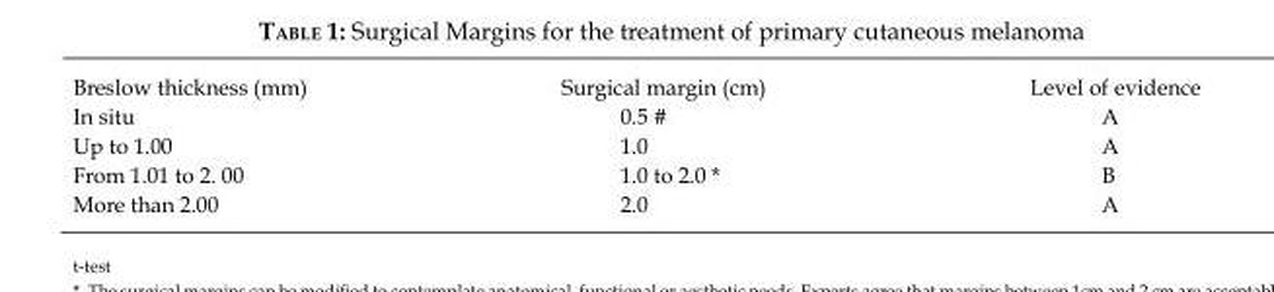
<table><tbody><tr><td>Breslow thickness (mm)</td><td>Surgical margin (cm)</td><td>Level of evidence</td></tr><tr><td>In situ</td><td>0.5 #</td><td>A</td></tr><tr><td>Up to 1.00</td><td>1.0</td><td>A</td></tr><tr><td>From 1.01 to 2. 00</td><td>1.0 to 2.0 *</td><td>B</td></tr><tr><td>More than 2.00</td><td>2.0</td><td>A</td></tr></tbody></table>